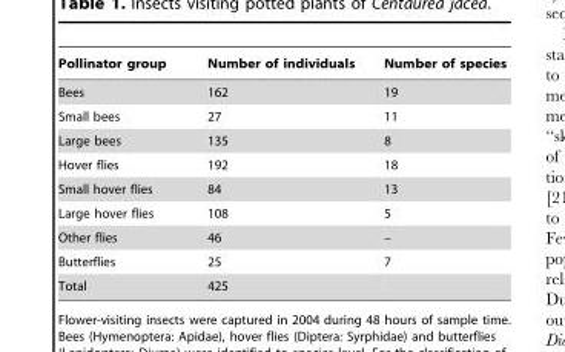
<table><thead><tr><td>Pollinator group</td><td>Number of individuals</td><td>Number of species</td></tr></thead><tbody><tr><td>Bees</td><td>162</td><td>19</td></tr><tr><td>Small bees</td><td>27</td><td>11</td></tr><tr><td>Large bees</td><td>135</td><td>8</td></tr><tr><td>Hover flies</td><td>192</td><td>18</td></tr><tr><td>Small hover flies</td><td>84</td><td>13</td></tr><tr><td>Large hover flies</td><td>108</td><td>5</td></tr><tr><td>Other flies</td><td>46</td><td>–</td></tr><tr><td>Butterflies</td><td>25</td><td>7</td></tr><tr><td>Total</td><td>425</td><td></td></tr></tbody></table>